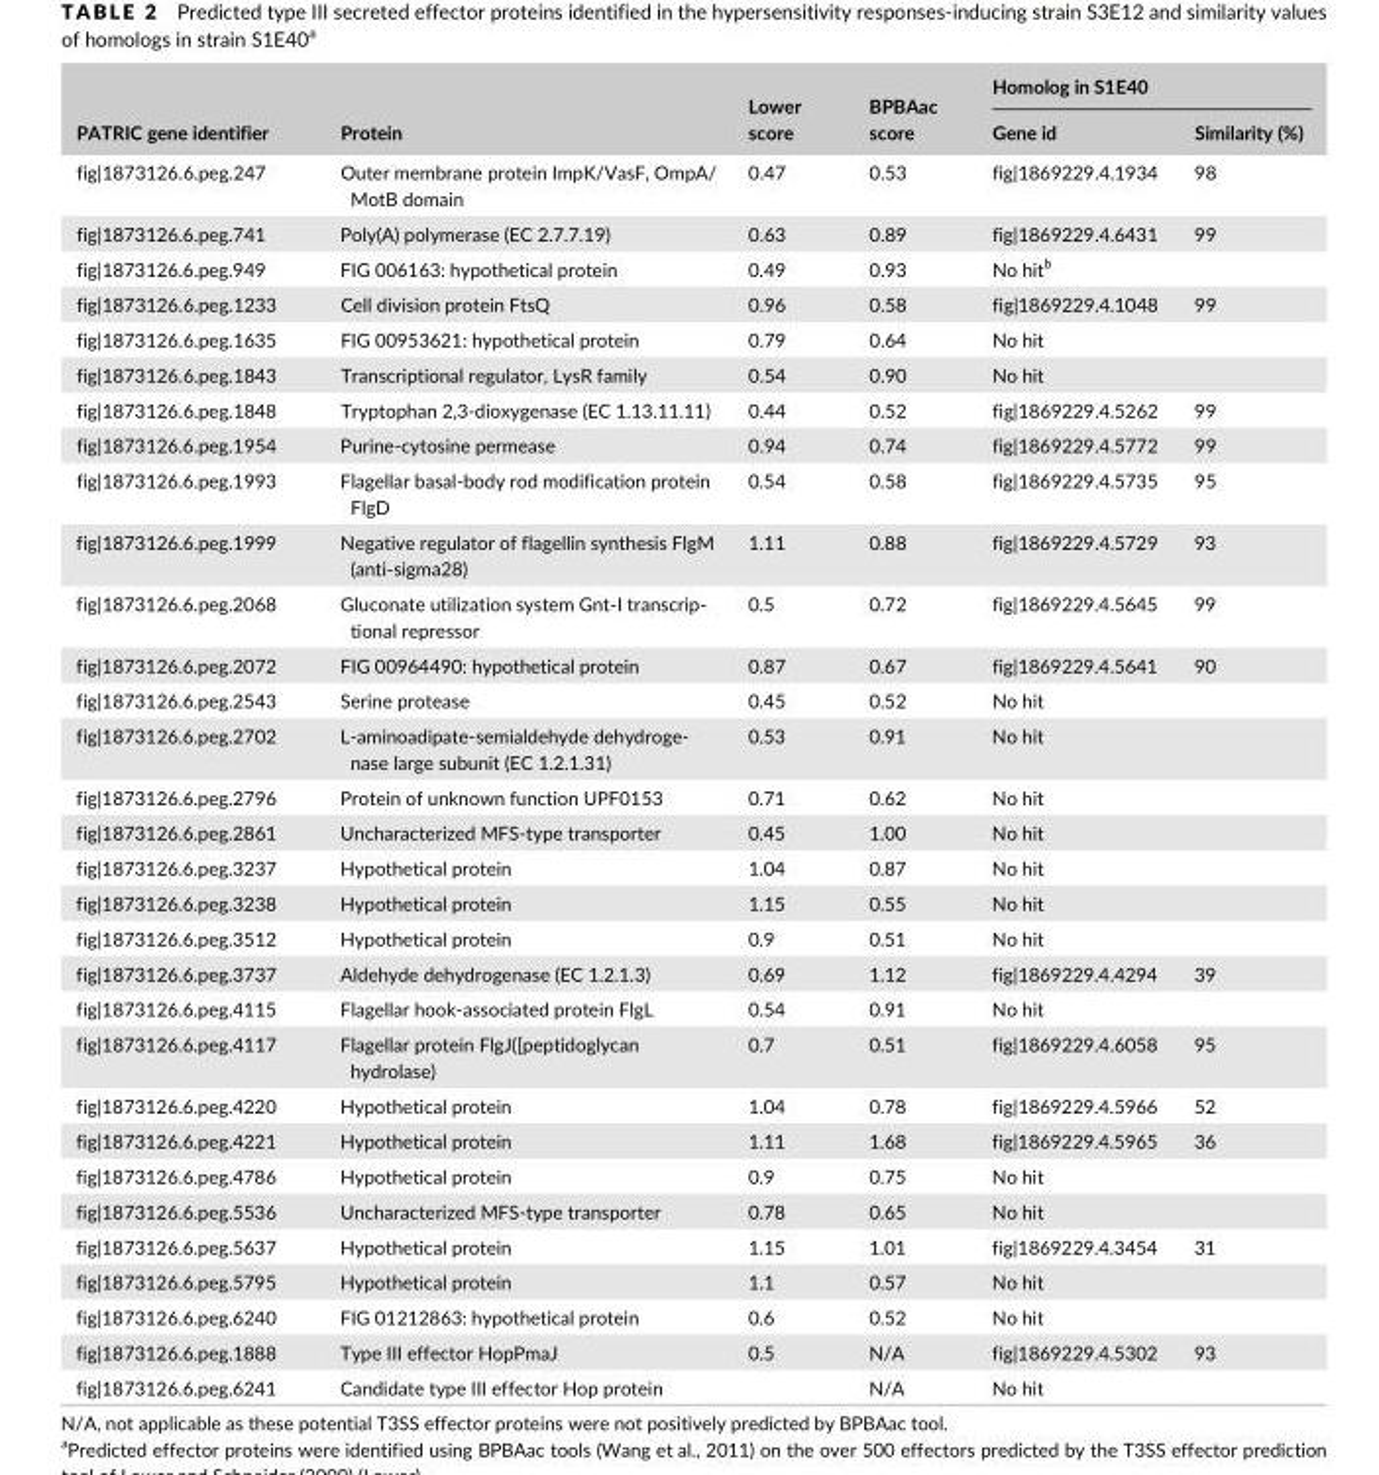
<table><thead><tr><td rowspan="2">PATRIC gene identifier</td><td rowspan="2">Protein</td><td rowspan="2">Lower score</td><td rowspan="2">BPBAac score</td><td colspan="2">Homolog in S1E40</td></tr><tr><td>Gene id</td><td>Similarity (%)</td></tr></thead><tbody><tr><td>fig|1873126.6.peg.247</td><td>Outer membrane protein ImpK/VasF, OmpA/ MotB domain</td><td>0.47</td><td>0.53</td><td>fig|1869229.4.1934</td><td>98</td></tr><tr><td>fig|1873126.6.peg.741</td><td>Poly(A) polymerase (EC 2.7.7.19)</td><td>0.63</td><td>0.89</td><td>fig|1869229.4.6431</td><td>99</td></tr><tr><td>fig|1873126.6.peg.949</td><td>FIG 006163: hypothetical protein</td><td>0.49</td><td>0.93</td><td>No hit<sup>b</sup></td><td></td></tr><tr><td>fig|1873126.6.peg.1233</td><td>Cell division protein FtsQ</td><td>0.96</td><td>0.58</td><td>fig|1869229.4.1048</td><td>99</td></tr><tr><td>fig|1873126.6.peg.1635</td><td>FIG 00953621: hypothetical protein</td><td>0.79</td><td>0.64</td><td>No hit</td><td></td></tr><tr><td>fig|1873126.6.peg.1843</td><td>Transcriptional regulator, LysR family</td><td>0.54</td><td>0.90</td><td>No hit</td><td></td></tr><tr><td>fig|1873126.6.peg.1848</td><td>Tryptophan 2,3- dioxygenase (EC 1.13.11.11)</td><td>0.44</td><td>0.52</td><td>fig|1869229.4.5262</td><td>99</td></tr><tr><td>fig|1873126.6.peg.1954</td><td>Purine- cytosine permease</td><td>0.94</td><td>0.74</td><td>fig|1869229.4.5772</td><td>99</td></tr><tr><td>fig|1873126.6.peg.1993</td><td>Flagellar basal- body rod modification protein FlgD</td><td>0.54</td><td>0.58</td><td>fig|1869229.4.5735</td><td>95</td></tr><tr><td>fig|1873126.6.peg.1999</td><td>Negative regulator of flagellin synthesis FlgM (anti- sigma28)</td><td>1.11</td><td>0.88</td><td>fig|1869229.4.5729</td><td>93</td></tr><tr><td>fig|1873126.6.peg.2068</td><td>Gluconate utilization system Gnt- I transcrip- tional repressor</td><td>0.5</td><td>0.72</td><td>fig|1869229.4.5645</td><td>99</td></tr><tr><td>fig|1873126.6.peg.2072</td><td>FIG 00964490: hypothetical protein</td><td>0.87</td><td>0.67</td><td>fig|1869229.4.5641</td><td>90</td></tr><tr><td>fig|1873126.6.peg.2543</td><td>Serine protease</td><td>0.45</td><td>0.52</td><td>No hit</td><td></td></tr><tr><td>fig|1873126.6.peg.2702</td><td>L- aminoadipate- semialdehyde dehydroge- nase large subunit (EC 1.2.1.31)</td><td>0.53</td><td>0.91</td><td>No hit</td><td></td></tr><tr><td>fig|1873126.6.peg.2796</td><td>Protein of unknown function UPF0153</td><td>0.71</td><td>0.62</td><td>No hit</td><td></td></tr><tr><td>fig|1873126.6.peg.2861</td><td>Uncharacterized MFS- type transporter</td><td>0.45</td><td>1.00</td><td>No hit</td><td></td></tr><tr><td>fig|1873126.6.peg.3237</td><td>Hypothetical protein</td><td>1.04</td><td>0.87</td><td>No hit</td><td></td></tr><tr><td>fig|1873126.6.peg.3238</td><td>Hypothetical protein</td><td>1.15</td><td>0.55</td><td>No hit</td><td></td></tr><tr><td>fig|1873126.6.peg.3512</td><td>Hypothetical protein</td><td>0.9</td><td>0.51</td><td>No hit</td><td></td></tr><tr><td>fig|1873126.6.peg.3737</td><td>Aldehyde dehydrogenase (EC 1.2.1.3)</td><td>0.69</td><td>1.12</td><td>fig|1869229.4.4294</td><td>39</td></tr><tr><td>fig|1873126.6.peg.4115</td><td>Flagellar hook- associated protein FlgL</td><td>0.54</td><td>0.91</td><td>No hit</td><td></td></tr><tr><td>fig|1873126.6.peg.4117</td><td>Flagellar protein FlgJ([peptidoglycan hydrolase)</td><td>0.7</td><td>0.51</td><td>fig|1869229.4.6058</td><td>95</td></tr><tr><td>fig|1873126.6.peg.4220</td><td>Hypothetical protein</td><td>1.04</td><td>0.78</td><td>fig|1869229.4.5966</td><td>52</td></tr><tr><td>fig|1873126.6.peg.4221</td><td>Hypothetical protein</td><td>1.11</td><td>1.68</td><td>fig|1869229.4.5965</td><td>36</td></tr><tr><td>fig|1873126.6.peg.4786</td><td>Hypothetical protein</td><td>0.9</td><td>0.75</td><td>No hit</td><td></td></tr><tr><td>fig|1873126.6.peg.5536</td><td>Uncharacterized MFS- type transporter</td><td>0.78</td><td>0.65</td><td>No hit</td><td></td></tr><tr><td>fig|1873126.6.peg.5637</td><td>Hypothetical protein</td><td>1.15</td><td>1.01</td><td>fig|1869229.4.3454</td><td>31</td></tr><tr><td>fig|1873126.6.peg.5795</td><td>Hypothetical protein</td><td>1.1</td><td>0.57</td><td>No hit</td><td></td></tr><tr><td>fig|1873126.6.peg.6240</td><td>FIG 01212863: hypothetical protein</td><td>0.6</td><td>0.52</td><td>No hit</td><td></td></tr><tr><td>fig|1873126.6.peg.1888</td><td>Type III effector HopPmaJ</td><td>0.5</td><td>N/A</td><td>fig|1869229.4.5302</td><td>93</td></tr><tr><td>fig|1873126.6.peg.6241</td><td>Candidate type III effector Hop protein</td><td></td><td>N/A</td><td>No hit</td><td></td></tr></tbody></table>